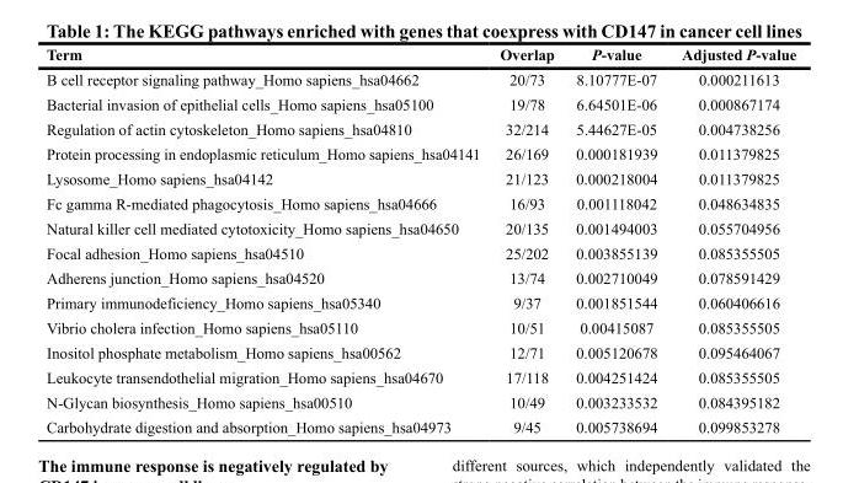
<table><thead><tr><td>Term</td><td>Overlap</td><td>P-value</td><td>Adjusted P-value</td></tr></thead><tbody><tr><td>B cell receptor signaling pathway_Homo sapiens_hsa04662</td><td>20/73</td><td>8.10777E-07</td><td>0.000211613</td></tr><tr><td>Bacterial invasion of epithelial cells_Homo sapiens_hsa05100</td><td>19/78</td><td>6.64501E-06</td><td>0.000867174</td></tr><tr><td>Regulation of actin cytoskeleton_Homo sapiens_hsa04810</td><td>32/214</td><td>5.44627E-05</td><td>0.004738256</td></tr><tr><td>Protein processing in endoplasmic reticulum_Homo sapiens_hsa04141</td><td>26/169</td><td>0.000181939</td><td>0.011379825</td></tr><tr><td>Lysosome_Homo sapiens_hsa04142</td><td>21/123</td><td>0.000218004</td><td>0.011379825</td></tr><tr><td>Fc gamma R-mediated phagocytosis_Homo sapiens_hsa04666</td><td>16/93</td><td>0.001118042</td><td>0.048634835</td></tr><tr><td>Natural killer cell mediated cytotoxicity_Homo sapiens_hsa04650</td><td>20/135</td><td>0.001494003</td><td>0.055704956</td></tr><tr><td>Focal adhesion_Homo sapiens_hsa04510</td><td>25/202</td><td>0.003855139</td><td>0.085355505</td></tr><tr><td>Adherens junction_Homo sapiens_hsa04520</td><td>13/74</td><td>0.002710049</td><td>0.078591429</td></tr><tr><td>Primary immunodeficiency_Homo sapiens_hsa05340</td><td>9/37</td><td>0.001851544</td><td>0.060406616</td></tr><tr><td>Vibrio cholera infection_Homo sapiens_hsa05110</td><td>10/51</td><td>0.00415087</td><td>0.085355505</td></tr><tr><td>Inositol phosphate metabolism_Homo sapiens_hsa00562</td><td>12/71</td><td>0.005120678</td><td>0.095464067</td></tr><tr><td>Leukocyte transendothelial migration_Homo sapiens_hsa04670</td><td>17/118</td><td>0.004251424</td><td>0.085355505</td></tr><tr><td>N-Glycan biosynthesis_Homo sapiens_hsa00510</td><td>10/49</td><td>0.003233532</td><td>0.084395182</td></tr><tr><td>Carbohydrate digestion and absorption_Homo sapiens_hsa04973</td><td>9/45</td><td>0.005738694</td><td>0.099853278</td></tr></tbody></table>